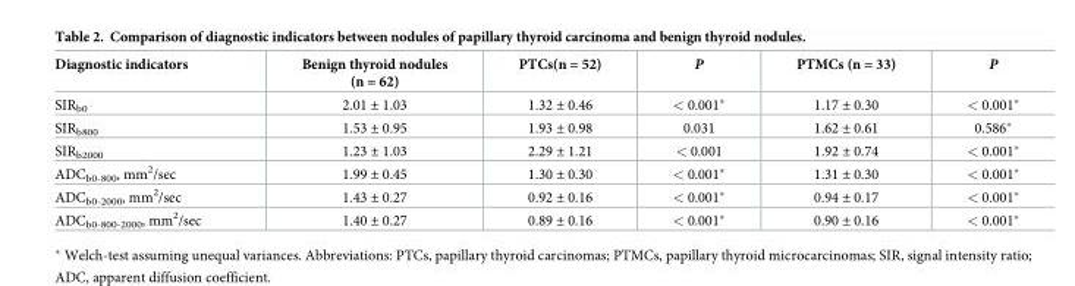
<table><thead><tr><td>Diagnostic indicators</td><td>Benign thyroid nodules (n = 62)</td><td>PTCs(n = 52)</td><td>P</td><td>PTMCs (n = 33)</td><td>P</td></tr></thead><tbody><tr><td>SIR<sub>b0</sub></td><td>2.01 ± 1.03</td><td>1.32 ± 0.46</td><td>&lt; 0.001*</td><td>1.17 ± 0.30</td><td>&lt; 0.001*</td></tr><tr><td>SIR<sub>b800</sub></td><td>1.53 ± 0.95</td><td>1.93 ± 0.98</td><td>0.031</td><td>1.62 ± 0.61</td><td>0.586*</td></tr><tr><td>SIR<sub>b2000</sub></td><td>1.23 ± 1.03</td><td>2.29 ± 1.21</td><td>&lt; 0.001</td><td>1.92 ± 0.74</td><td>&lt; 0.001*</td></tr><tr><td>ADC<sub>b0-800</sub>, mm<sup>2</sup>/sec</td><td>1.99 ± 0.45</td><td>1.30 ± 0.30</td><td>&lt; 0.001*</td><td>1.31 ± 0.30</td><td>&lt; 0.001*</td></tr><tr><td>ADC<sub>b0-2000</sub>, mm<sup>2</sup>/sec</td><td>1.43 ± 0.27</td><td>0.92 ± 0.16</td><td>&lt; 0.001*</td><td>0.94 ± 0.17</td><td>&lt; 0.001*</td></tr><tr><td>ADC<sub>b0-800-2000</sub>, mm<sup>2</sup>/sec</td><td>1.40 ± 0.27</td><td>0.89 ± 0.16</td><td>&lt; 0.001*</td><td>0.90 ± 0.16</td><td>&lt; 0.001*</td></tr></tbody></table>